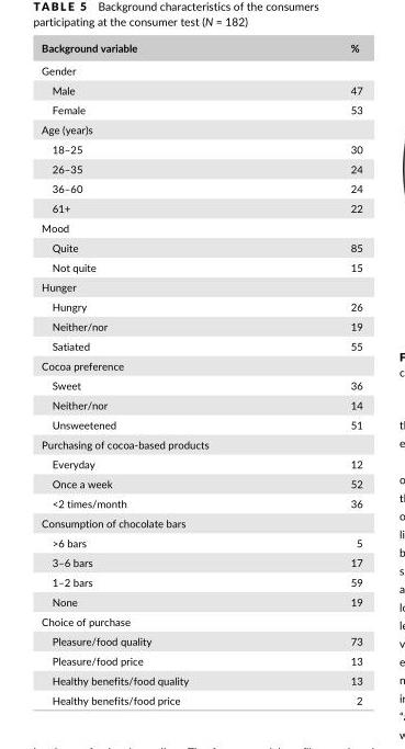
<table><thead><tr><td>Background variable</td><td>%</td></tr></thead><tbody><tr><td colspan="2">Gender</td></tr><tr><td>Male</td><td>47</td></tr><tr><td>Female</td><td>53</td></tr><tr><td colspan="2">Age (year)s</td></tr><tr><td>18–25</td><td>30</td></tr><tr><td>26–35</td><td>24</td></tr><tr><td>36–60</td><td>24</td></tr><tr><td>61+</td><td>22</td></tr><tr><td colspan="2">Mood</td></tr><tr><td>Quite</td><td>85</td></tr><tr><td>Not quite</td><td>15</td></tr><tr><td colspan="2">Hunger</td></tr><tr><td>Hungry</td><td>26</td></tr><tr><td>Neither/nor</td><td>19</td></tr><tr><td>Satiated</td><td>55</td></tr><tr><td colspan="2">Cocoa preference</td></tr><tr><td>Sweet</td><td>36</td></tr><tr><td>Neither/nor</td><td>14</td></tr><tr><td>Unsweetened</td><td>51</td></tr><tr><td colspan="2">Purchasing of cocoa- based products</td></tr><tr><td>Everyday</td><td>12</td></tr><tr><td>Once a week</td><td>52</td></tr><tr><td>&lt;2 times/month</td><td>36</td></tr><tr><td colspan="2">Consumption of chocolate bars</td></tr><tr><td>&gt;6 bars</td><td>5</td></tr><tr><td>3–6 bars</td><td>17</td></tr><tr><td>1–2 bars</td><td>59</td></tr><tr><td>None</td><td>19</td></tr><tr><td colspan="2">Choice of purchase</td></tr><tr><td>Pleasure/food quality</td><td>73</td></tr><tr><td>Pleasure/food price</td><td>13</td></tr><tr><td>Healthy benefits/food quality</td><td>13</td></tr><tr><td>Healthy benefits/food price</td><td>2</td></tr></tbody></table>